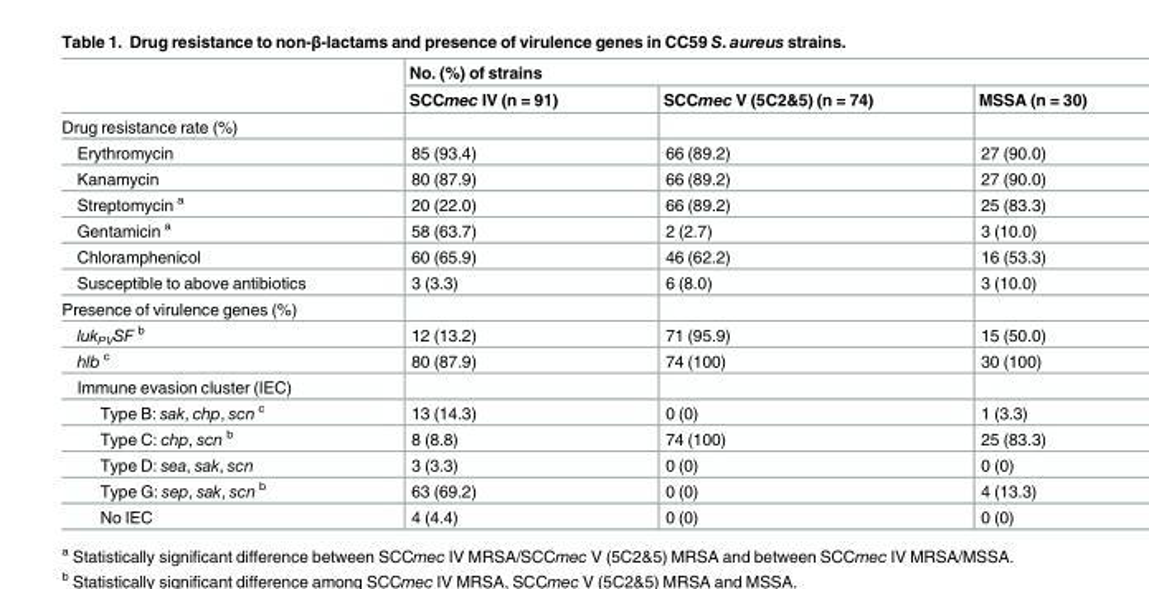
<table><thead><tr><td rowspan="2"></td><td colspan="3">No. (%) of strains</td></tr><tr><td>SCCmec IV (n = 91)</td><td>SCCmec V (5C2&amp;5) (n = 74)</td><td>MSSA (n = 30)</td></tr></thead><tbody><tr><td colspan="4">Drug resistance rate (%)</td></tr><tr><td>Erythromycin</td><td>85 (93.4)</td><td>66 (89.2)</td><td>27 (90.0)</td></tr><tr><td>Kanamycin</td><td>80 (87.9)</td><td>66 (89.2)</td><td>27 (90.0)</td></tr><tr><td>Streptomycin <sup>a</sup></td><td>20 (22.0)</td><td>66 (89.2)</td><td>25 (83.3)</td></tr><tr><td>Gentamicin <sup>a</sup></td><td>58 (63.7)</td><td>2 (2.7)</td><td>3 (10.0)</td></tr><tr><td>Chloramphenicol</td><td>60 (65.9)</td><td>46 (62.2)</td><td>16 (53.3)</td></tr><tr><td>Susceptible to above antibiotics</td><td>3 (3.3)</td><td>6 (8.0)</td><td>3 (10.0)</td></tr><tr><td colspan="4">Presence of virulence genes (%)</td></tr><tr><td>luk<sub>PV</sub>SF <sup>b</sup></td><td>12 (13.2)</td><td>71 (95.9)</td><td>15 (50.0)</td></tr><tr><td>hlb <sup>c</sup></td><td>80 (87.9)</td><td>74 (100)</td><td>30 (100)</td></tr><tr><td colspan="4">Immune evasion cluster (IEC)</td></tr><tr><td>Type B: sak, chp, scn <sup>c</sup></td><td>13 (14.3)</td><td>0 (0)</td><td>1 (3.3)</td></tr><tr><td>Type C: chp, scn <sup>b</sup></td><td>8 (8.8)</td><td>74 (100)</td><td>25 (83.3)</td></tr><tr><td>Type D: sea, sak, scn</td><td>3 (3.3)</td><td>0 (0)</td><td>0 (0)</td></tr><tr><td>Type G: sep, sak, scn <sup>b</sup></td><td>63 (69.2)</td><td>0 (0)</td><td>4 (13.3)</td></tr><tr><td>No IEC</td><td>4 (4.4)</td><td>0 (0)</td><td>0 (0)</td></tr></tbody></table>